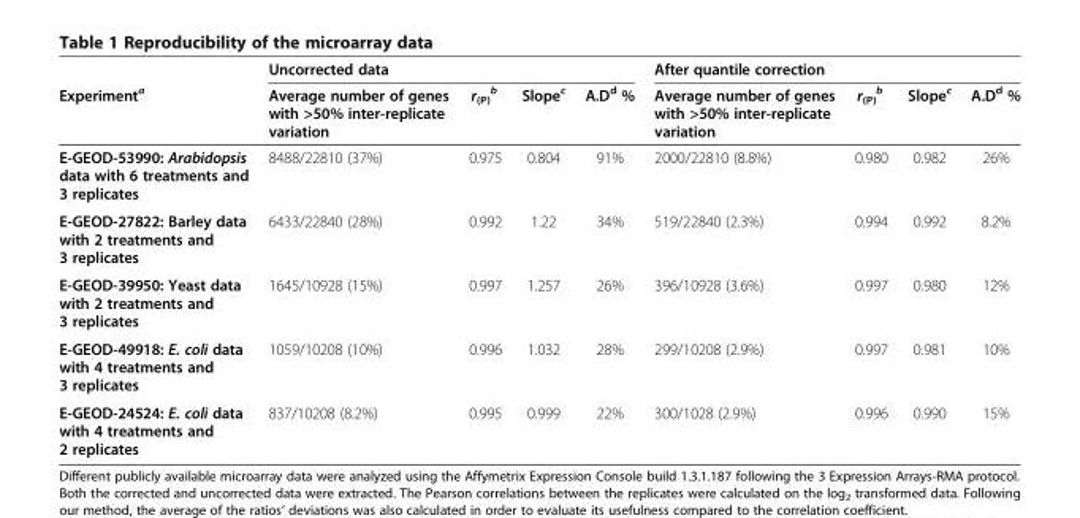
<table><thead><tr><td rowspan="2">Experiment<sup>a</sup></td><td colspan="4">Uncorrected data</td><td colspan="4">After quantile correction</td></tr><tr><td>Average number of genes with &gt;50% inter-replicate variation</td><td>r<sub>(P)</sub> <sup>b</sup></td><td>Slope<sup>c</sup></td><td>A.D<sup>d</sup> %</td><td>Average number of genes with &gt;50% inter-replicate variation</td><td>r<sub>(P)</sub> <sup>b</sup></td><td>Slope<sup>c</sup></td><td>A.D<sup>d</sup> %</td></tr></thead><tbody><tr><td>E-GEOD-53990: Arabidopsis data with 6 treatments and 3 replicates</td><td>8488/22810 (37%)</td><td>0.975</td><td>0.804</td><td>91%</td><td>2000/22810 (8.8%)</td><td>0.980</td><td>0.982</td><td>26%</td></tr><tr><td>E-GEOD-27822: Barley data with 2 treatments and 3 replicates</td><td>6433/22840 (28%)</td><td>0.992</td><td>1.22</td><td>34%</td><td>519/22840 (2.3%)</td><td>0.994</td><td>0.992</td><td>8.2%</td></tr><tr><td>E-GEOD-39950: Yeast data with 2 treatments and 3 replicates</td><td>1645/10928 (15%)</td><td>0.997</td><td>1.257</td><td>26%</td><td>396/10928 (3.6%)</td><td>0.997</td><td>0.980</td><td>12%</td></tr><tr><td>E-GEOD-49918: E. coli data with 4 treatments and 3 replicates</td><td>1059/10208 (10%)</td><td>0.996</td><td>1.032</td><td>28%</td><td>299/10208 (2.9%)</td><td>0.997</td><td>0.981</td><td>10%</td></tr><tr><td>E-GEOD-24524: E. coli data with 4 treatments and 2 replicates</td><td>837/10208 (8.2%)</td><td>0.995</td><td>0.999</td><td>22%</td><td>300/1028 (2.9%)</td><td>0.996</td><td>0.990</td><td>15%</td></tr></tbody></table>